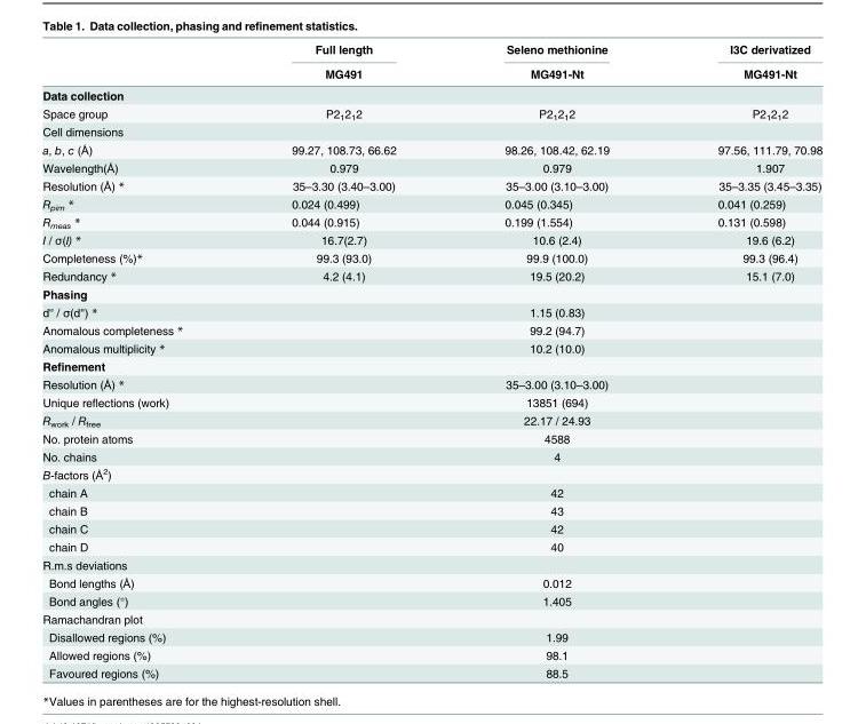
<table><thead><tr><td rowspan="2"></td><td rowspan="2">Full length MG491</td><td rowspan="2">Seleno methionine MG491-Nt</td><td rowspan="2">I3C derivatized MG491-Nt</td></tr><tr></tr></thead><tbody><tr><td colspan="4">Data collection</td></tr><tr><td>Space group</td><td>P2<sub>1</sub>2<sub>1</sub>2</td><td>P2<sub>1</sub>2<sub>1</sub>2</td><td>P2<sub>1</sub>2<sub>1</sub>2</td></tr><tr><td colspan="4">Cell dimensions</td></tr><tr><td>a, b, c (Å)</td><td>99.27, 108.73, 66.62</td><td>98.26, 108.42, 62.19</td><td>97.56, 111.79, 70.98</td></tr><tr><td>Wavelength(Å)</td><td>0.979</td><td>0.979</td><td>1.907</td></tr><tr><td>Resolution (Å) *</td><td>35–3.30 (3.40–3.00)</td><td>35–3.00 (3.10–3.00)</td><td>35–3.35 (3.45–3.35)</td></tr><tr><td>R<sub>pim</sub> *</td><td>0.024 (0.499)</td><td>0.045 (0.345)</td><td>0.041 (0.259)</td></tr><tr><td>R<sub>meas</sub> *</td><td>0.044 (0.915)</td><td>0.199 (1.554)</td><td>0.131 (0.598)</td></tr><tr><td>I / σ(I) *</td><td>16.7(2.7)</td><td>10.6 (2.4)</td><td>19.6 (6.2)</td></tr><tr><td>Completeness (%)*</td><td>99.3 (93.0)</td><td>99.9 (100.0)</td><td>99.3 (96.4)</td></tr><tr><td>Redundancy *</td><td>4.2 (4.1)</td><td>19.5 (20.2)</td><td>15.1 (7.0)</td></tr><tr><td colspan="4">Phasing</td></tr><tr><td>d&#x27;&#x27; / σ(d&#x27;&#x27;) *</td><td></td><td>1.15 (0.83)</td><td></td></tr><tr><td>Anomalous completeness *</td><td></td><td>99.2 (94.7)</td><td></td></tr><tr><td>Anomalous multiplicity *</td><td></td><td>10.2 (10.0)</td><td></td></tr><tr><td colspan="4">Refinement</td></tr><tr><td>Resolution (Å) *</td><td></td><td>35–3.00 (3.10–3.00)</td><td></td></tr><tr><td>Unique reflections (work)</td><td></td><td>13851 (694)</td><td></td></tr><tr><td>R<sub>work</sub> / R<sub>free</sub></td><td></td><td>22.17 / 24.93</td><td></td></tr><tr><td>No. protein atoms</td><td></td><td>4588</td><td></td></tr><tr><td>No. chains</td><td></td><td>4</td><td></td></tr><tr><td colspan="4">B-factors (Å<sup>2</sup>)</td></tr><tr><td>chain A</td><td></td><td>42</td><td></td></tr><tr><td>chain B</td><td></td><td>43</td><td></td></tr><tr><td>chain C</td><td></td><td>42</td><td></td></tr><tr><td>chain D</td><td></td><td>40</td><td></td></tr><tr><td colspan="4">R.m.s deviations</td></tr><tr><td>Bond lengths (Å)</td><td></td><td>0.012</td><td></td></tr><tr><td>Bond angles (°)</td><td></td><td>1.405</td><td></td></tr><tr><td colspan="4">Ramachandran plot</td></tr><tr><td>Disallowed regions (%)</td><td></td><td>1.99</td><td></td></tr><tr><td>Allowed regions (%)</td><td></td><td>98.1</td><td></td></tr><tr><td>Favoured regions (%)</td><td></td><td>88.5</td><td></td></tr></tbody></table>